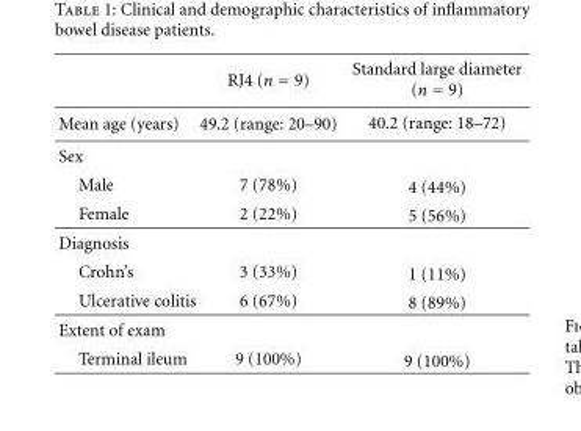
<table><thead><tr><td></td><td>RJ4 (n = 9)</td><td>Standard large diameter (n = 9)</td></tr></thead><tbody><tr><td>Mean age (years)</td><td>49.2 (range: 20–90)</td><td>40.2 (range: 18–72)</td></tr><tr><td colspan="3">Sex</td></tr><tr><td>Male</td><td>7 (78%)</td><td>4 (44%)</td></tr><tr><td>Female</td><td>2 (22%)</td><td>5 (56%)</td></tr><tr><td colspan="3">Diagnosis</td></tr><tr><td>Crohn’s</td><td>3 (33%)</td><td>1 (11%)</td></tr><tr><td>Ulcerative colitis</td><td>6 (67%)</td><td>8 (89%)</td></tr><tr><td colspan="3">Extent of exam</td></tr><tr><td>Terminal ileum</td><td>9 (100%)</td><td>9 (100%)</td></tr></tbody></table>